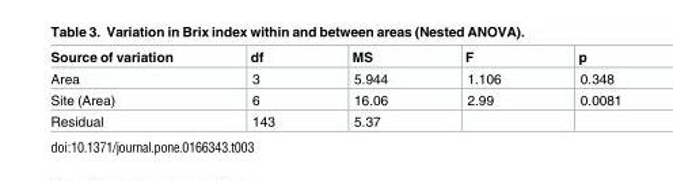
<table><thead><tr><td>Source of variation</td><td>df</td><td>MS</td><td>F</td><td>p</td></tr></thead><tbody><tr><td>Area</td><td>3</td><td>5.944</td><td>1.106</td><td>0.348</td></tr><tr><td>Site (Area)</td><td>6</td><td>16.06</td><td>2.99</td><td>0.0081</td></tr><tr><td>Residual</td><td>143</td><td>5.37</td><td></td><td></td></tr></tbody></table>